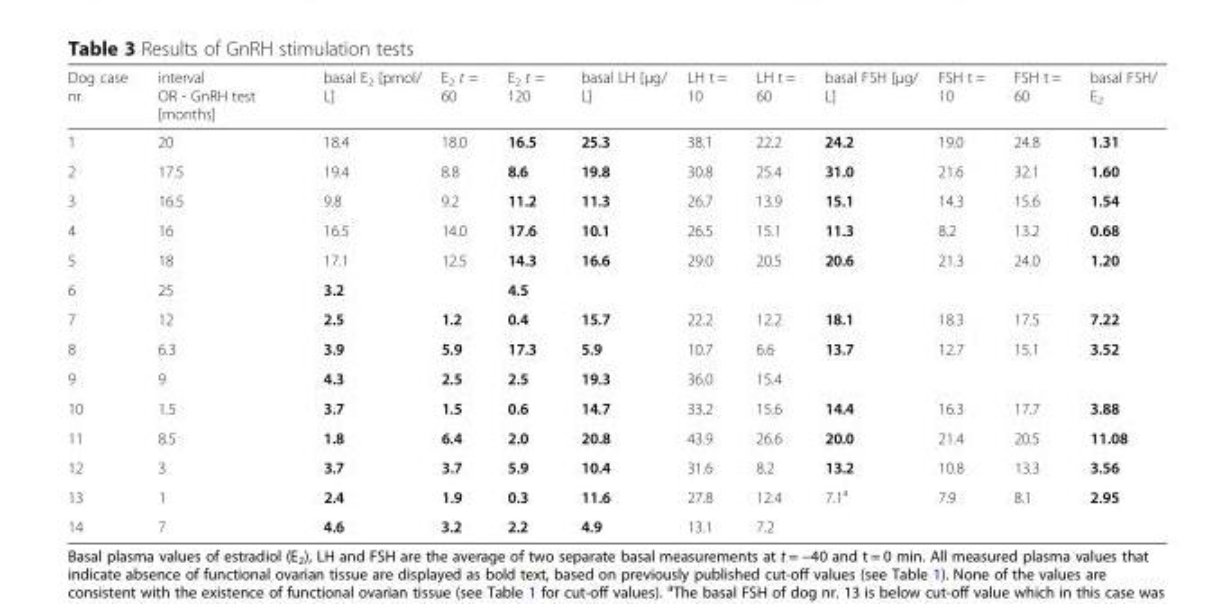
<table><thead><tr><td>Dog case nr.</td><td>interval OR - GnRH test [months]</td><td>basal E<sub>2</sub> [pmol/ L]</td><td>E<sub>2</sub> t = 60</td><td>E<sub>2</sub> t = 120</td><td>basal LH [μg/ L]</td><td>LH t = 10</td><td>LH t = 60</td><td>basal FSH [μg/ L]</td><td>FSH t = 10</td><td>FSH t = 60</td><td>basal FSH/ E<sub>2</sub></td></tr></thead><tbody><tr><td>1</td><td>20</td><td>18.4</td><td>18.0</td><td>16.5</td><td>25.3</td><td>38.1</td><td>22.2</td><td>24.2</td><td>19.0</td><td>24.8</td><td>1.31</td></tr><tr><td>2</td><td>17.5</td><td>19.4</td><td>8.8</td><td>8.6</td><td>19.8</td><td>30.8</td><td>25.4</td><td>31.0</td><td>21.6</td><td>32.1</td><td>1.60</td></tr><tr><td>3</td><td>16.5</td><td>9.8</td><td>9.2</td><td>11.2</td><td>11.3</td><td>26.7</td><td>13.9</td><td>15.1</td><td>14.3</td><td>15.6</td><td>1.54</td></tr><tr><td>4</td><td>16</td><td>16.5</td><td>14.0</td><td>17.6</td><td>10.1</td><td>26.5</td><td>15.1</td><td>11.3</td><td>8.2</td><td>13.2</td><td>0.68</td></tr><tr><td>5</td><td>18</td><td>17.1</td><td>12.5</td><td>14.3</td><td>16.6</td><td>29.0</td><td>20.5</td><td>20.6</td><td>21.3</td><td>24.0</td><td>1.20</td></tr><tr><td>6</td><td>25</td><td>3.2</td><td></td><td>4.5</td><td></td><td></td><td></td><td></td><td></td><td></td><td></td></tr><tr><td>7</td><td>12</td><td>2.5</td><td>1.2</td><td>0.4</td><td>15.7</td><td>22.2</td><td>12.2</td><td>18.1</td><td>18.3</td><td>17.5</td><td>7.22</td></tr><tr><td>8</td><td>6.3</td><td>3.9</td><td>5.9</td><td>17.3</td><td>5.9</td><td>10.7</td><td>6.6</td><td>13.7</td><td>12.7</td><td>15.1</td><td>3.52</td></tr><tr><td>9</td><td>9</td><td>4.3</td><td>2.5</td><td>2.5</td><td>19.3</td><td>36.0</td><td>15.4</td><td></td><td></td><td></td><td></td></tr><tr><td>10</td><td>1.5</td><td>3.7</td><td>1.5</td><td>0.6</td><td>14.7</td><td>33.2</td><td>15.6</td><td>14.4</td><td>16.3</td><td>17.7</td><td>3.88</td></tr><tr><td>11</td><td>8.5</td><td>1.8</td><td>6.4</td><td>2.0</td><td>20.8</td><td>43.9</td><td>26.6</td><td>20.0</td><td>21.4</td><td>20.5</td><td>11.08</td></tr><tr><td>12</td><td>3</td><td>3.7</td><td>3.7</td><td>5.9</td><td>10.4</td><td>31.6</td><td>8.2</td><td>13.2</td><td>10.8</td><td>13.3</td><td>3.56</td></tr><tr><td>13</td><td>1</td><td>2.4</td><td>1.9</td><td>0.3</td><td>11.6</td><td>27.8</td><td>12.4</td><td>7.1<sup>a</sup></td><td>7.9</td><td>8.1</td><td>2.95</td></tr><tr><td>14</td><td>7</td><td>4.6</td><td>3.2</td><td>2.2</td><td>4.9</td><td>13.1</td><td>7.2</td><td></td><td></td><td></td><td></td></tr></tbody></table>